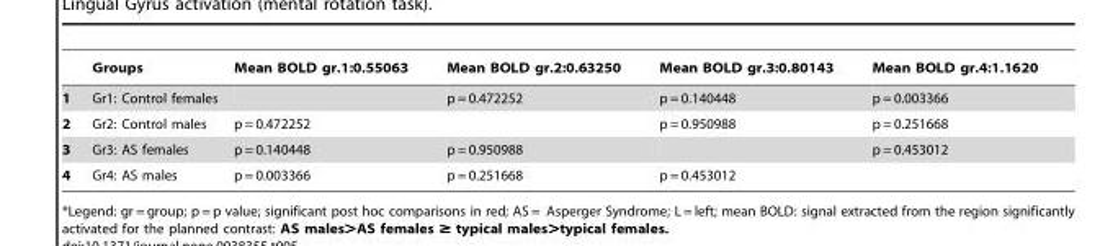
<table><thead><tr><td></td><td>Groups</td><td>Mean BOLD gr.1:0.55063</td><td>Mean BOLD gr.2:0.63250</td><td>Mean BOLD gr.3:0.80143</td><td>Mean BOLD gr.4:1.1620</td></tr></thead><tbody><tr><td>1</td><td>Gr1: Control females</td><td></td><td>p = 0.472252</td><td>p = 0.140448</td><td>p = 0.003366</td></tr><tr><td>2</td><td>Gr2: Control males</td><td>p = 0.472252</td><td></td><td>p = 0.950988</td><td>p = 0.251668</td></tr><tr><td>3</td><td>Gr3: AS females</td><td>p = 0.140448</td><td>p = 0.950988</td><td></td><td>p = 0.453012</td></tr><tr><td>4</td><td>Gr4: AS males</td><td>p = 0.003366</td><td>p = 0.251668</td><td>p = 0.453012</td><td></td></tr></tbody></table>